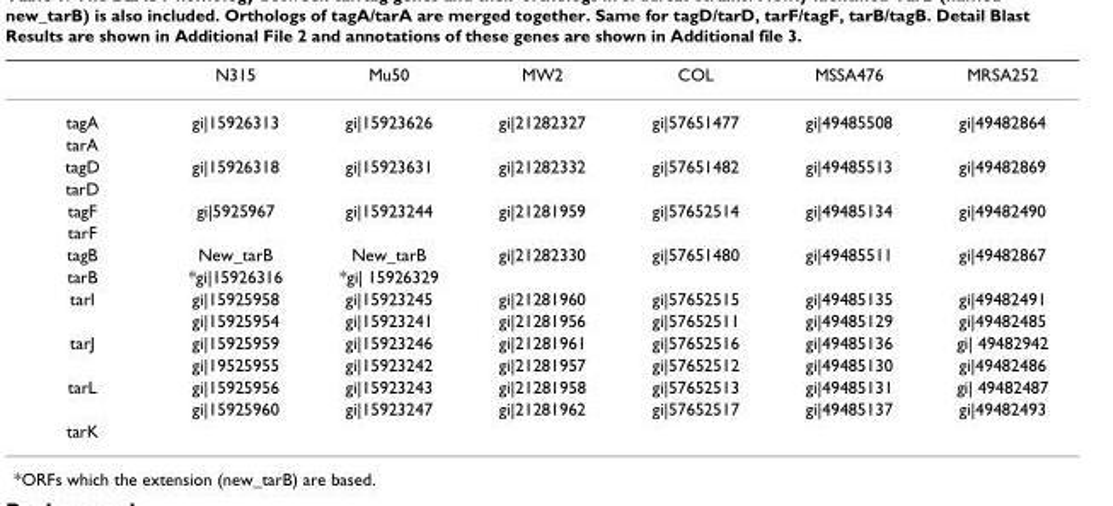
<table><thead><tr><td></td><td>N315</td><td>Mu50</td><td>MW2</td><td>COL</td><td>MSSA476</td><td>MRSA252</td></tr></thead><tbody><tr><td>tagA</td><td>gi|15926313</td><td>gi|15923626</td><td>gi|21282327</td><td>gi|57651477</td><td>gi|49485508</td><td>gi|49482864</td></tr><tr><td colspan="7">tarA</td></tr><tr><td>tagD</td><td>gi|15926318</td><td>gi|15923631</td><td>gi|21282332</td><td>gi|57651482</td><td>gi|49485513</td><td>gi|49482869</td></tr><tr><td colspan="7">tarD</td></tr><tr><td>tagF</td><td>gi|5925967</td><td>gi|15923244</td><td>gi|21281959</td><td>gi|57652514</td><td>gi|49485134</td><td>gi|49482490</td></tr><tr><td colspan="7">tarF</td></tr><tr><td>tagB</td><td>New_tarB</td><td>New_tarB</td><td>gi|21282330</td><td>gi|57651480</td><td>gi|49485511</td><td>gi|49482867</td></tr><tr><td>tarB</td><td>*gi|15926316</td><td>*gi| 15926329</td><td></td><td></td><td></td><td></td></tr><tr><td rowspan="2">tarI</td><td>gi|15925958</td><td>gi|15923245</td><td>gi|21281960</td><td>gi|57652515</td><td>gi|49485135</td><td>gi|49482491</td></tr><tr><td>gi|15925954</td><td>gi|15923241</td><td>gi|21281956</td><td>gi|57652511</td><td>gi|49485129</td><td>gi|49482485</td></tr><tr><td rowspan="2">tarJ</td><td>gi|15925959</td><td>gi|15923246</td><td>gi|21281961</td><td>gi|57652516</td><td>gi|49485136</td><td>gi| 49482942</td></tr><tr><td>gi|19525955</td><td>gi|15923242</td><td>gi|21281957</td><td>gi|57652512</td><td>gi|49485130</td><td>gi|49482486</td></tr><tr><td rowspan="2">tarL</td><td>gi|15925956</td><td>gi|15923243</td><td>gi|21281958</td><td>gi|57652513</td><td>gi|49485131</td><td>gi| 49482487</td></tr><tr><td>gi|15925960</td><td>gi|15923247</td><td>gi|21281962</td><td>gi|57652517</td><td>gi|49485137</td><td>gi|49482493</td></tr><tr><td>tarK</td><td></td><td></td><td></td><td></td><td></td><td></td></tr></tbody></table>